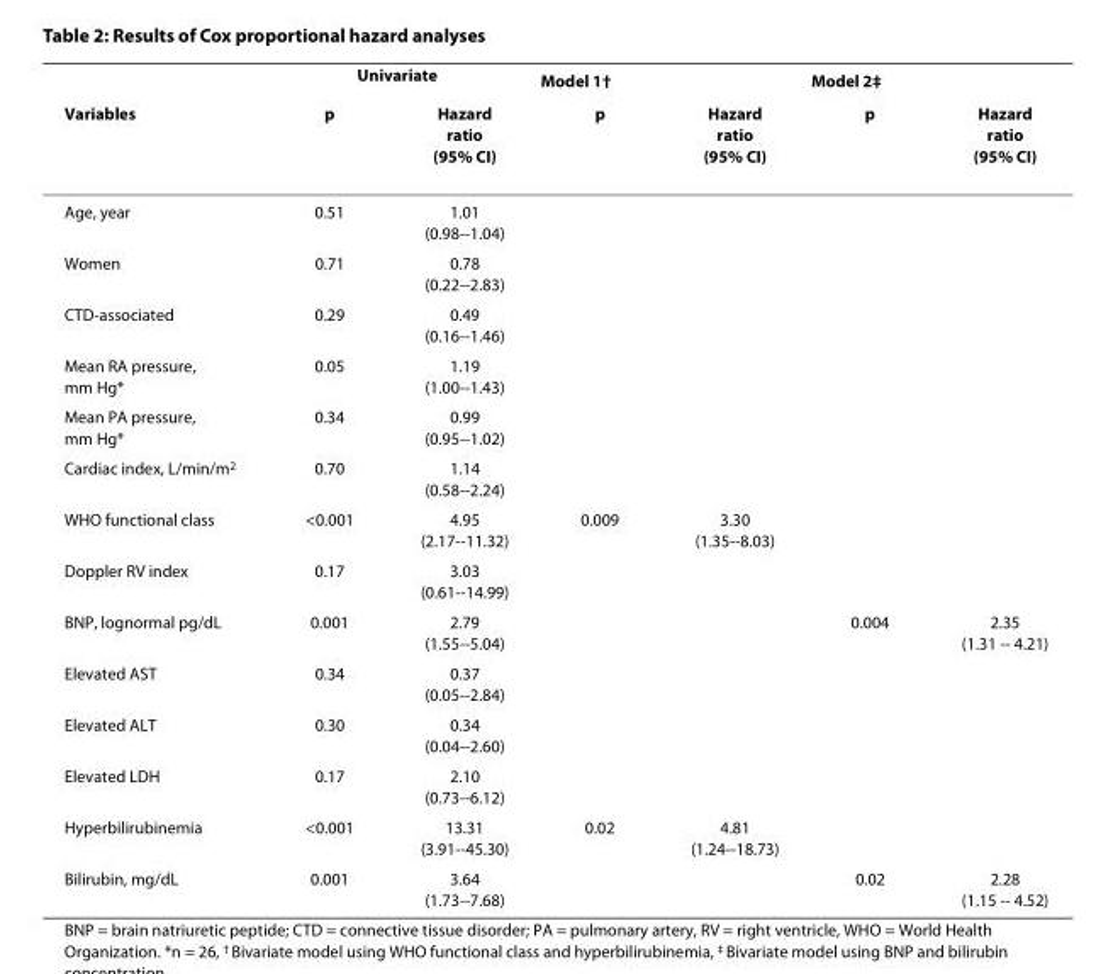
<table><thead><tr><td rowspan="2">Variables</td><td colspan="2">Univariate</td><td colspan="2">Model 1<sup>†</sup></td><td colspan="2">Model 2<sup>‡</sup></td></tr><tr><td>p</td><td>Hazard ratio (95% CI)</td><td>p</td><td>Hazard ratio (95% CI)</td><td>p</td><td>Hazard ratio (95% CI)</td></tr></thead><tbody><tr><td>Age, year</td><td>0.51</td><td>1.01 (0.98--1.04)</td><td></td><td></td><td></td><td></td></tr><tr><td>Women</td><td>0.71</td><td>0.78 (0.22--2.83)</td><td></td><td></td><td></td><td></td></tr><tr><td>CTD-associated</td><td>0.29</td><td>0.49 (0.16--1.46)</td><td></td><td></td><td></td><td></td></tr><tr><td>Mean RA pressure, mm Hg*</td><td>0.05</td><td>1.19 (1.00--1.43)</td><td></td><td></td><td></td><td></td></tr><tr><td>Mean PA pressure, mm Hg*</td><td>0.34</td><td>0.99 (0.95--1.02)</td><td></td><td></td><td></td><td></td></tr><tr><td>Cardiac index, L/min/m<sup>2</sup></td><td>0.70</td><td>1.14 (0.58--2.24)</td><td></td><td></td><td></td><td></td></tr><tr><td>WHO functional class</td><td>&lt;0.001</td><td>4.95 (2.17--11.32)</td><td>0.009</td><td>3.30 (1.35--8.03)</td><td></td><td></td></tr><tr><td>Doppler RV index</td><td>0.17</td><td>3.03 (0.61--14.99)</td><td></td><td></td><td></td><td></td></tr><tr><td>BNP, lognormal pg/dL</td><td>0.001</td><td>2.79 (1.55--5.04)</td><td></td><td></td><td>0.004</td><td>2.35 (1.31 -- 4.21)</td></tr><tr><td>Elevated AST</td><td>0.34</td><td>0.37 (0.05--2.84)</td><td></td><td></td><td></td><td></td></tr><tr><td>Elevated ALT</td><td>0.30</td><td>0.34 (0.04--2.60)</td><td></td><td></td><td></td><td></td></tr><tr><td>Elevated LDH</td><td>0.17</td><td>2.10 (0.73--6.12)</td><td></td><td></td><td></td><td></td></tr><tr><td>Hyperbilirubinemia</td><td>&lt;0.001</td><td>13.31 (3.91--45.30)</td><td>0.02</td><td>4.81 (1.24--18.73)</td><td></td><td></td></tr><tr><td>Bilirubin, mg/dL</td><td>0.001</td><td>3.64 (1.73--7.68)</td><td></td><td></td><td>0.02</td><td>2.28 (1.15 -- 4.52)</td></tr></tbody></table>